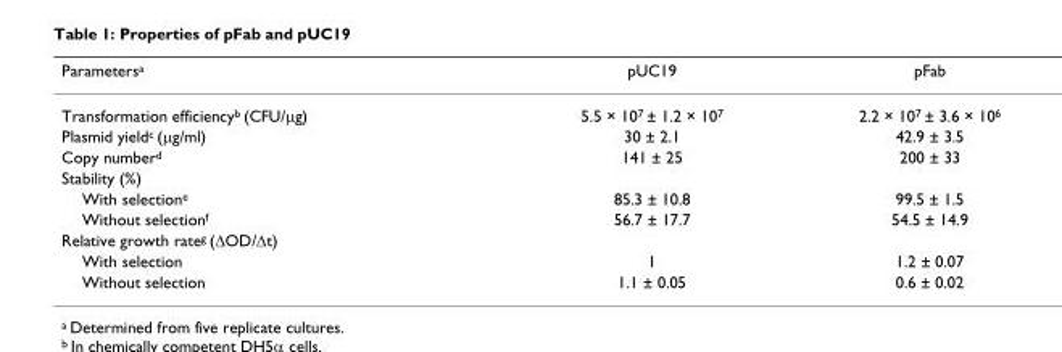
<table><thead><tr><td>Parameters<sup>a</sup></td><td>pUC19</td><td>pFab</td></tr></thead><tbody><tr><td>Transformation efficiency<sup>b</sup> (CFU/μg)</td><td>5.5 × 10<sup>7</sup> ± 1.2 × 10<sup>7</sup></td><td>2.2 × 10<sup>7</sup> ± 3.6 × 10<sup>6</sup></td></tr><tr><td>Plasmid yield<sup>c</sup> (μg/ml)</td><td>30 ± 2.1</td><td>42.9 ± 3.5</td></tr><tr><td>Copy number<sup>d</sup></td><td>141 ± 25</td><td>200 ± 33</td></tr><tr><td colspan="3">Stability (%)</td></tr><tr><td>With selection<sup>e</sup></td><td>85.3 ± 10.8</td><td>99.5 ± 1.5</td></tr><tr><td>Without selection<sup>f</sup></td><td>56.7 ± 17.7</td><td>54.5 ± 14.9</td></tr><tr><td colspan="3">Relative growth rate<sup>g</sup> (ΔOD/Δt)</td></tr><tr><td>With selection</td><td>1</td><td>1.2 ± 0.07</td></tr><tr><td>Without selection</td><td>1.1 ± 0.05</td><td>0.6 ± 0.02</td></tr></tbody></table>